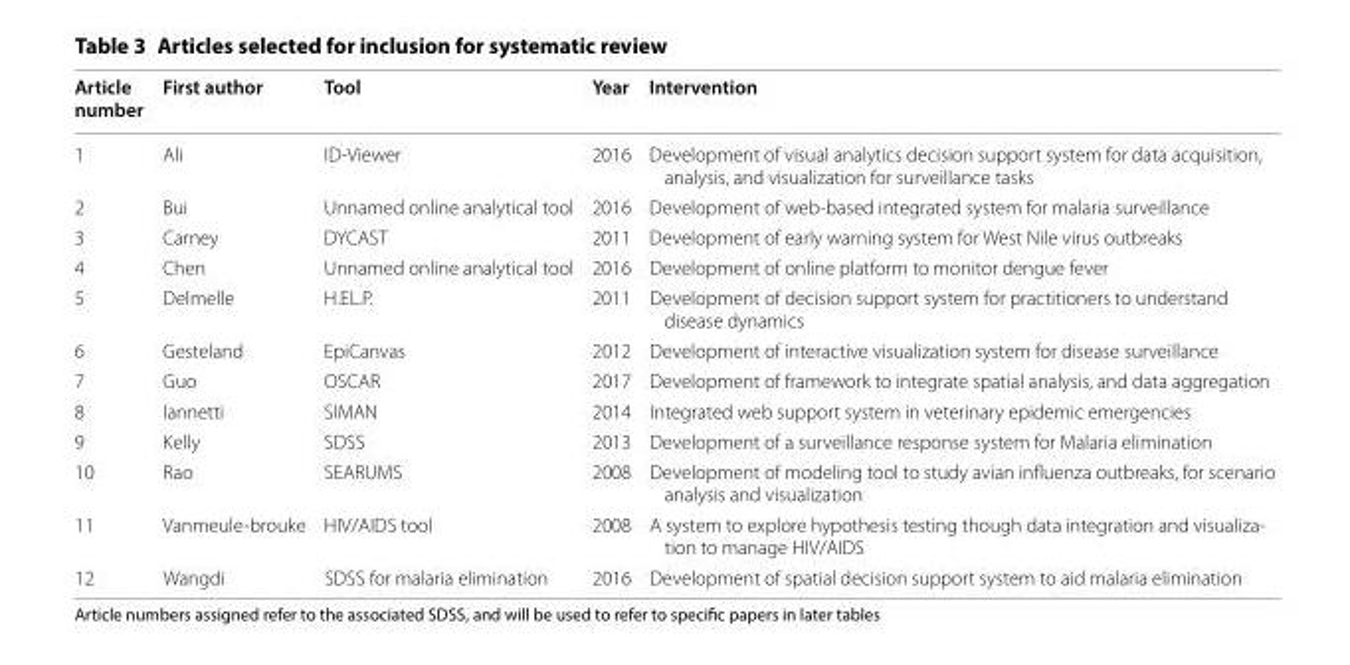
<table><thead><tr><td>Article number</td><td>First author</td><td>Tool</td><td>Year</td><td>Intervention</td></tr></thead><tbody><tr><td>1</td><td>Ali</td><td>ID-Viewer</td><td>2016</td><td>Development of visual analytics decision support system for data acquisition, analysis, and visualization for surveillance tasks</td></tr><tr><td>2</td><td>Bui</td><td>Unnamed online analytical tool</td><td>2016</td><td>Development of web-based integrated system for malaria surveillance</td></tr><tr><td>3</td><td>Carney</td><td>DYCAST</td><td>2011</td><td>Development of early warning system for West Nile virus outbreaks</td></tr><tr><td>4</td><td>Chen</td><td>Unnamed online analytical tool</td><td>2016</td><td>Development of online platform to monitor dengue fever</td></tr><tr><td>5</td><td>Delmelle</td><td>H.EL.P.</td><td>2011</td><td>Development of decision support system for practitioners to understand disease dynamics</td></tr><tr><td>6</td><td>Gesteland</td><td>EpiCanvas</td><td>2012</td><td>Development of interactive visualization system for disease surveillance</td></tr><tr><td>7</td><td>Guo</td><td>OSCAR</td><td>2017</td><td>Development of framework to integrate spatial analysis, and data aggregation</td></tr><tr><td>8</td><td>Iannetti</td><td>SIMAN</td><td>2014</td><td>Integrated web support system in veterinary epidemic emergencies</td></tr><tr><td>9</td><td>Kelly</td><td>SDSS</td><td>2013</td><td>Development of a surveillance response system for Malaria elimination</td></tr><tr><td>10</td><td>Rao</td><td>SEARUMS</td><td>2008</td><td>Development of modeling tool to study avian influenza outbreaks, for scenario analysis and visualization</td></tr><tr><td>11</td><td>Vanmeule-brouke</td><td>HIV/AIDS tool</td><td>2008</td><td>A system to explore hypothesis testing though data integration and visualiza- tion to manage HIV/AIDS</td></tr><tr><td>12</td><td>Wangdi</td><td>SDSS for malaria elimination</td><td>2016</td><td>Development of spatial decision support system to aid malaria elimination</td></tr></tbody></table>